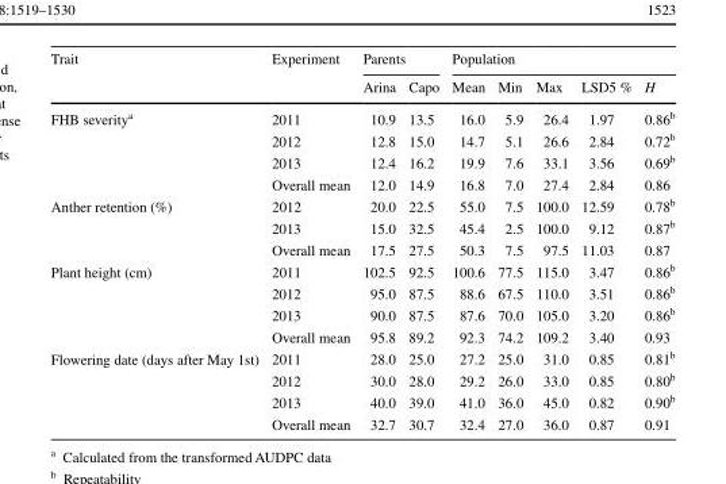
<table><thead><tr><td rowspan="2">Trait</td><td rowspan="2">Experiment</td><td colspan="2">Parents</td><td colspan="5">Population</td></tr><tr><td>Arina</td><td>Capo</td><td>Mean</td><td>Min</td><td>Max</td><td>LSD5 %</td><td>H</td></tr></thead><tbody><tr><td rowspan="4">FHB severity<sup>a</sup></td><td>2011</td><td>10.9</td><td>13.5</td><td>16.0</td><td>5.9</td><td>26.4</td><td>1.97</td><td>0.86<sup>b</sup></td></tr><tr><td>2012</td><td>12.8</td><td>15.0</td><td>14.7</td><td>5.1</td><td>26.6</td><td>2.84</td><td>0.72<sup>b</sup></td></tr><tr><td>2013</td><td>12.4</td><td>16.2</td><td>19.9</td><td>7.6</td><td>33.1</td><td>3.56</td><td>0.69<sup>b</sup></td></tr><tr><td>Overall mean</td><td>12.0</td><td>14.9</td><td>16.8</td><td>7.0</td><td>27.4</td><td>2.84</td><td>0.86</td></tr><tr><td rowspan="3">Anther retention (%)</td><td>2012</td><td>20.0</td><td>22.5</td><td>55.0</td><td>7.5</td><td>100.0</td><td>12.59</td><td>0.78<sup>b</sup></td></tr><tr><td>2013</td><td>15.0</td><td>32.5</td><td>45.4</td><td>2.5</td><td>100.0</td><td>9.12</td><td>0.87<sup>b</sup></td></tr><tr><td>Overall mean</td><td>17.5</td><td>27.5</td><td>50.3</td><td>7.5</td><td>97.5</td><td>11.03</td><td>0.87</td></tr><tr><td rowspan="4">Plant height (cm)</td><td>2011</td><td>102.5</td><td>92.5</td><td>100.6</td><td>77.5</td><td>115.0</td><td>3.47</td><td>0.86<sup>b</sup></td></tr><tr><td>2012</td><td>95.0</td><td>87.5</td><td>88.6</td><td>67.5</td><td>110.0</td><td>3.51</td><td>0.86<sup>b</sup></td></tr><tr><td>2013</td><td>90.0</td><td>87.5</td><td>87.6</td><td>70.0</td><td>105.0</td><td>3.20</td><td>0.86<sup>b</sup></td></tr><tr><td>Overall mean</td><td>95.8</td><td>89.2</td><td>92.3</td><td>74.2</td><td>109.2</td><td>3.40</td><td>0.93</td></tr><tr><td rowspan="4">Flowering date (days after May 1st)</td><td>2011</td><td>28.0</td><td>25.0</td><td>27.2</td><td>25.0</td><td>31.0</td><td>0.85</td><td>0.81<sup>b</sup></td></tr><tr><td>2012</td><td>30.0</td><td>28.0</td><td>29.2</td><td>26.0</td><td>33.0</td><td>0.85</td><td>0.80<sup>b</sup></td></tr><tr><td>2013</td><td>40.0</td><td>39.0</td><td>41.0</td><td>36.0</td><td>45.0</td><td>0.82</td><td>0.90<sup>b</sup></td></tr><tr><td>Overall mean</td><td>32.7</td><td>30.7</td><td>32.4</td><td>27.0</td><td>36.0</td><td>0.87</td><td>0.91</td></tr></tbody></table>